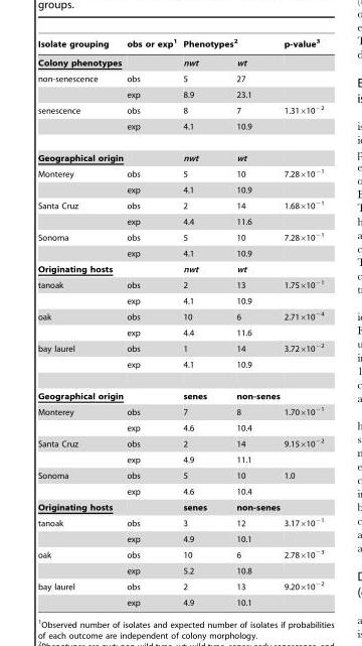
<table><thead><tr><td rowspan="2">Isolate grouping Colony phenotypes</td><td rowspan="2">obs or exp<sup>1</sup></td><td colspan="2">Phenotypes<sup>2</sup></td><td rowspan="2">p-value<sup>3</sup></td></tr><tr><td>nwt</td><td>wt</td></tr></thead><tbody><tr><td rowspan="2">non-senescence</td><td>obs</td><td>5</td><td>27</td><td></td></tr><tr><td>exp</td><td>8.9</td><td>23.1</td><td></td></tr><tr><td rowspan="2">senescence</td><td>obs</td><td>8</td><td>7</td><td>1.31×10<sup>−2</sup></td></tr><tr><td>exp</td><td>4.1</td><td>10.9</td><td></td></tr><tr><td>Geographical origin</td><td></td><td>nwt</td><td>wt</td><td></td></tr><tr><td rowspan="2">Monterey</td><td>obs</td><td>5</td><td>10</td><td>7.28×10<sup>−1</sup></td></tr><tr><td>exp</td><td>4.1</td><td>10.9</td><td></td></tr><tr><td rowspan="2">Santa Cruz</td><td>obs</td><td>2</td><td>14</td><td>1.68×10<sup>−1</sup></td></tr><tr><td>exp</td><td>4.4</td><td>11.6</td><td></td></tr><tr><td rowspan="2">Sonoma</td><td>obs</td><td>5</td><td>10</td><td>7.28×10<sup>−1</sup></td></tr><tr><td>exp</td><td>4.1</td><td>10.9</td><td></td></tr><tr><td>Originating hosts</td><td></td><td>nwt</td><td>wt</td><td></td></tr><tr><td rowspan="2">tanoak</td><td>obs</td><td>2</td><td>13</td><td>1.75×10<sup>−1</sup></td></tr><tr><td>exp</td><td>4.1</td><td>10.9</td><td></td></tr><tr><td rowspan="2">oak</td><td>obs</td><td>10</td><td>6</td><td>2.71×10<sup>−4</sup></td></tr><tr><td>exp</td><td>4.4</td><td>11.6</td><td></td></tr><tr><td rowspan="2">bay laurel</td><td>obs</td><td>1</td><td>14</td><td>3.72×10<sup>−2</sup></td></tr><tr><td>exp</td><td>4.1</td><td>10.9</td><td></td></tr><tr><td>Geographical origin</td><td></td><td>senes</td><td colspan="2">non-senes</td></tr><tr><td rowspan="2">Monterey</td><td>obs</td><td>7</td><td>8</td><td>1.70×10<sup>−1</sup></td></tr><tr><td>exp</td><td>4.6</td><td>10.4</td><td></td></tr><tr><td rowspan="2">Santa Cruz</td><td>obs</td><td>2</td><td>14</td><td>9.15×10<sup>−2</sup></td></tr><tr><td>exp</td><td>4.9</td><td>11.1</td><td></td></tr><tr><td rowspan="2">Sonoma</td><td>obs</td><td>5</td><td>10</td><td>1.0</td></tr><tr><td>exp</td><td>4.6</td><td>10.4</td><td></td></tr><tr><td>Originating hosts</td><td></td><td>senes</td><td colspan="2">non-senes</td></tr><tr><td rowspan="2">tanoak</td><td>obs</td><td>3</td><td>12</td><td>3.17×10<sup>−1</sup></td></tr><tr><td>exp</td><td>4.9</td><td>10.1</td><td></td></tr><tr><td rowspan="2">oak</td><td>obs</td><td>10</td><td>6</td><td>2.78×10<sup>−3</sup></td></tr><tr><td>exp</td><td>5.2</td><td>10.8</td><td></td></tr><tr><td rowspan="2">bay laurel</td><td>obs</td><td>2</td><td>13</td><td>9.20×10<sup>−2</sup></td></tr><tr><td>exp</td><td>4.9</td><td>10.1</td><td></td></tr></tbody></table>